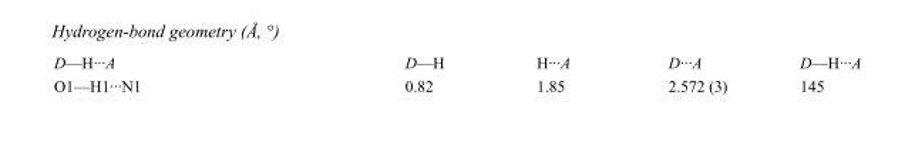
<table><tbody><tr><td>D—H···A</td><td>D—H</td><td>H···A</td><td>D···A</td><td>D—H···A</td></tr><tr><td>O1—H1···N1</td><td>0.82</td><td>1.85</td><td>2.572 (3)</td><td>145</td></tr></tbody></table>